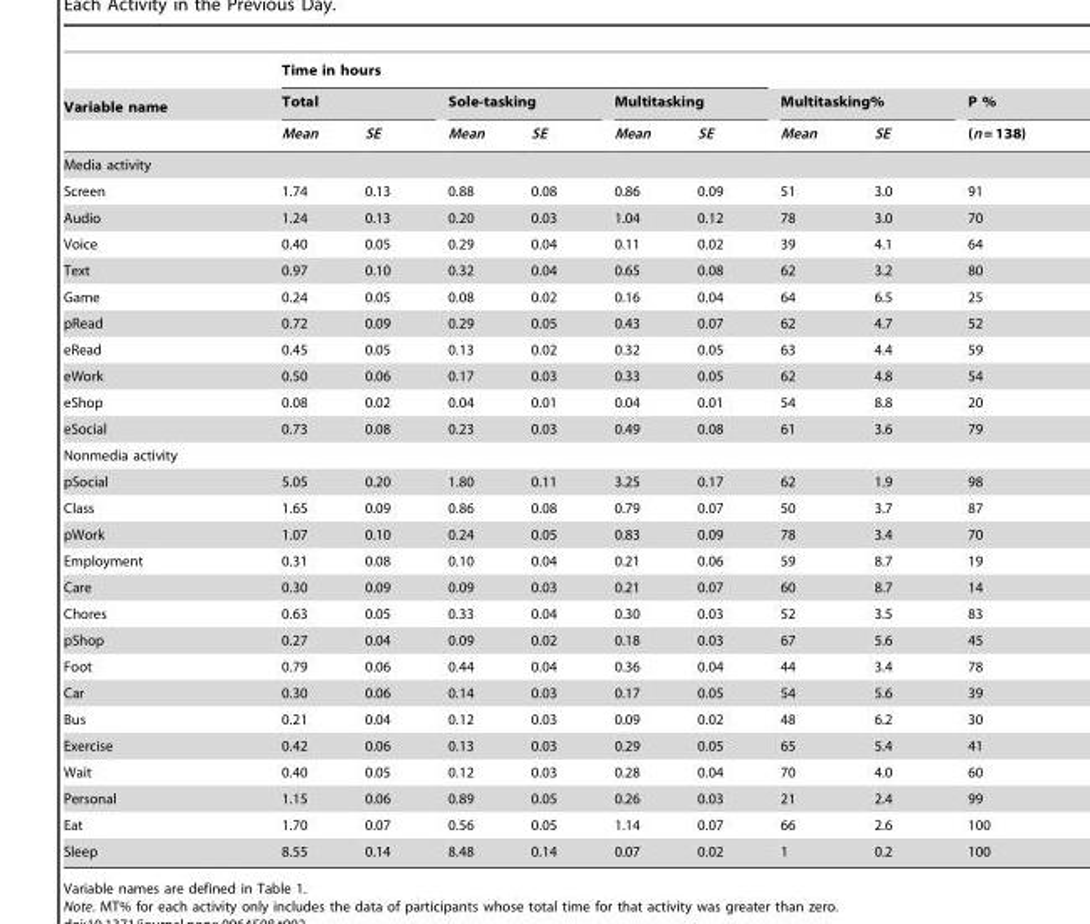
<table><thead><tr><td rowspan="3">Variable name</td><td colspan="6">Time in hours</td><td></td><td></td><td rowspan="3">P % (n = 138)</td></tr><tr><td colspan="2">Total</td><td colspan="2">Sole-tasking</td><td colspan="2">Multitasking</td><td colspan="2">Multitasking%</td></tr><tr><td>Mean</td><td>SE</td><td>Mean</td><td>SE</td><td>Mean</td><td>SE</td><td>Mean</td><td>SE</td></tr></thead><tbody><tr><td colspan="10">Media activity</td></tr><tr><td>Screen</td><td>1.74</td><td>0.13</td><td>0.88</td><td>0.08</td><td>0.86</td><td>0.09</td><td>51</td><td>3.0</td><td>91</td></tr><tr><td>Audio</td><td>1.24</td><td>0.13</td><td>0.20</td><td>0.03</td><td>1.04</td><td>0.12</td><td>78</td><td>3.0</td><td>70</td></tr><tr><td>Voice</td><td>0.40</td><td>0.05</td><td>0.29</td><td>0.04</td><td>0.11</td><td>0.02</td><td>39</td><td>4.1</td><td>64</td></tr><tr><td>Text</td><td>0.97</td><td>0.10</td><td>0.32</td><td>0.04</td><td>0.65</td><td>0.08</td><td>62</td><td>3.2</td><td>80</td></tr><tr><td>Game</td><td>0.24</td><td>0.05</td><td>0.08</td><td>0.02</td><td>0.16</td><td>0.04</td><td>64</td><td>6.5</td><td>25</td></tr><tr><td>pRead</td><td>0.72</td><td>0.09</td><td>0.29</td><td>0.05</td><td>0.43</td><td>0.07</td><td>62</td><td>4.7</td><td>52</td></tr><tr><td>eRead</td><td>0.45</td><td>0.05</td><td>0.13</td><td>0.02</td><td>0.32</td><td>0.05</td><td>63</td><td>4.4</td><td>59</td></tr><tr><td>eWork</td><td>0.50</td><td>0.06</td><td>0.17</td><td>0.03</td><td>0.33</td><td>0.05</td><td>62</td><td>4.8</td><td>54</td></tr><tr><td>eShop</td><td>0.08</td><td>0.02</td><td>0.04</td><td>0.01</td><td>0.04</td><td>0.01</td><td>54</td><td>8.8</td><td>20</td></tr><tr><td>eSocial</td><td>0.73</td><td>0.08</td><td>0.23</td><td>0.03</td><td>0.49</td><td>0.08</td><td>61</td><td>3.6</td><td>79</td></tr><tr><td colspan="10">Nonmedia activity</td></tr><tr><td>pSocial</td><td>5.05</td><td>0.20</td><td>1.80</td><td>0.11</td><td>3.25</td><td>0.17</td><td>62</td><td>1.9</td><td>98</td></tr><tr><td>Class</td><td>1.65</td><td>0.09</td><td>0.86</td><td>0.08</td><td>0.79</td><td>0.07</td><td>50</td><td>3.7</td><td>87</td></tr><tr><td>pWork</td><td>1.07</td><td>0.10</td><td>0.24</td><td>0.05</td><td>0.83</td><td>0.09</td><td>78</td><td>3.4</td><td>70</td></tr><tr><td>Employment</td><td>0.31</td><td>0.08</td><td>0.10</td><td>0.04</td><td>0.21</td><td>0.06</td><td>59</td><td>8.7</td><td>19</td></tr><tr><td>Care</td><td>0.30</td><td>0.09</td><td>0.09</td><td>0.03</td><td>0.21</td><td>0.07</td><td>60</td><td>8.7</td><td>14</td></tr><tr><td>Chores</td><td>0.63</td><td>0.05</td><td>0.33</td><td>0.04</td><td>0.30</td><td>0.03</td><td>52</td><td>3.5</td><td>83</td></tr><tr><td>pShop</td><td>0.27</td><td>0.04</td><td>0.09</td><td>0.02</td><td>0.18</td><td>0.03</td><td>67</td><td>5.6</td><td>45</td></tr><tr><td>Foot</td><td>0.79</td><td>0.06</td><td>0.44</td><td>0.04</td><td>0.36</td><td>0.04</td><td>44</td><td>3.4</td><td>78</td></tr><tr><td>Car</td><td>0.30</td><td>0.06</td><td>0.14</td><td>0.03</td><td>0.17</td><td>0.05</td><td>54</td><td>5.6</td><td>39</td></tr><tr><td>Bus</td><td>0.21</td><td>0.04</td><td>0.12</td><td>0.03</td><td>0.09</td><td>0.02</td><td>48</td><td>6.2</td><td>30</td></tr><tr><td>Exercise</td><td>0.42</td><td>0.06</td><td>0.13</td><td>0.03</td><td>0.29</td><td>0.05</td><td>65</td><td>5.4</td><td>41</td></tr><tr><td>Wait</td><td>0.40</td><td>0.05</td><td>0.12</td><td>0.03</td><td>0.28</td><td>0.04</td><td>70</td><td>4.0</td><td>60</td></tr><tr><td>Personal</td><td>1.15</td><td>0.06</td><td>0.89</td><td>0.05</td><td>0.26</td><td>0.03</td><td>21</td><td>2.4</td><td>99</td></tr><tr><td>Eat</td><td>1.70</td><td>0.07</td><td>0.56</td><td>0.05</td><td>1.14</td><td>0.07</td><td>66</td><td>2.6</td><td>100</td></tr><tr><td>Sleep</td><td>8.55</td><td>0.14</td><td>8.48</td><td>0.14</td><td>0.07</td><td>0.02</td><td>1</td><td>0.2</td><td>100</td></tr></tbody></table>